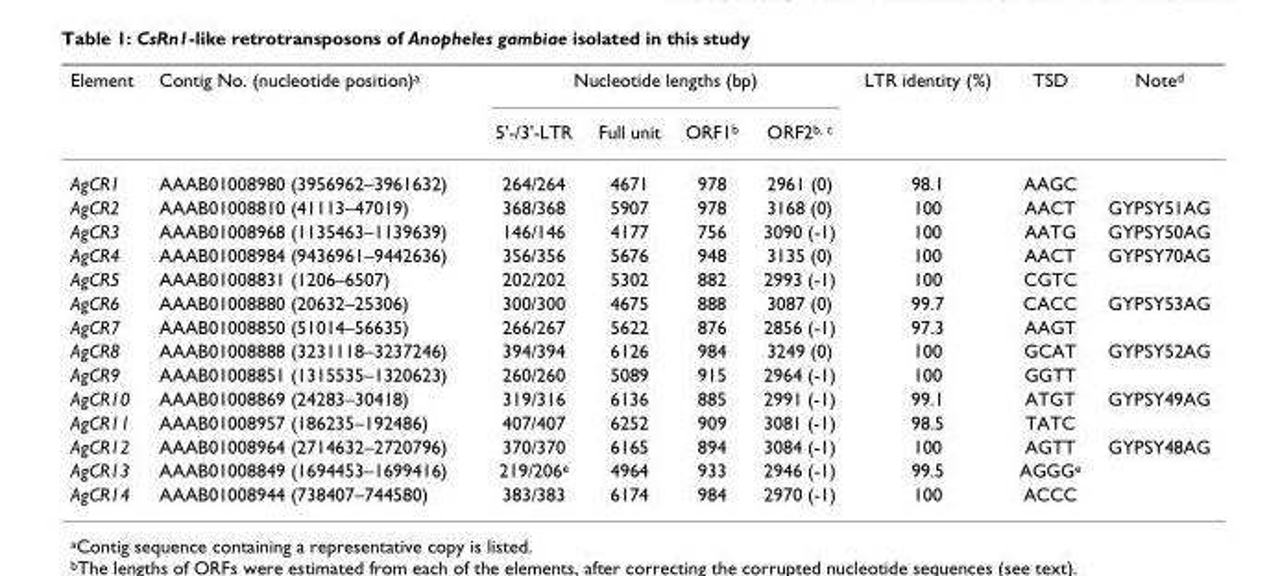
<table><thead><tr><td rowspan="2">Element</td><td rowspan="2">Contig No. (nucleotide position)<sup>a</sup></td><td colspan="4">Nucleotide lengths (bp)</td><td rowspan="2">LTR identity (%)</td><td rowspan="2">TSD</td><td rowspan="2">Note<sup>d</sup></td></tr><tr><td>5&#x27;-/3&#x27;-LTR</td><td>Full unit</td><td>ORF1<sup>b</sup></td><td>ORF2<sup>b, c</sup></td></tr></thead><tbody><tr><td>AgCR1</td><td>AAAB01008980 (3956962–3961632)</td><td>264/264</td><td>4671</td><td>978</td><td>2961 (0)</td><td>98.1</td><td>AAGC</td><td></td></tr><tr><td>AgCR2</td><td>AAAB01008810 (41113–47019)</td><td>368/368</td><td>5907</td><td>978</td><td>3168 (0)</td><td>100</td><td>AACT</td><td>GYPSY51AG</td></tr><tr><td>AgCR3</td><td>AAAB01008968 (1135463–1139639)</td><td>146/146</td><td>4177</td><td>756</td><td>3090 (-1)</td><td>100</td><td>AATG</td><td>GYPSY50AG</td></tr><tr><td>AgCR4</td><td>AAAB01008984 (9436961–9442636)</td><td>356/356</td><td>5676</td><td>948</td><td>3135 (0)</td><td>100</td><td>AACT</td><td>GYPSY70AG</td></tr><tr><td>AgCR5</td><td>AAAB01008831 (1206–6507)</td><td>202/202</td><td>5302</td><td>882</td><td>2993 (-1)</td><td>100</td><td>CGTC</td><td></td></tr><tr><td>AgCR6</td><td>AAAB01008880 (20632–25306)</td><td>300/300</td><td>4675</td><td>888</td><td>3087 (0)</td><td>99.7</td><td>CACC</td><td>GYPSY53AG</td></tr><tr><td>AgCR7</td><td>AAAB01008850 (51014–56635)</td><td>266/267</td><td>5622</td><td>876</td><td>2856 (-1)</td><td>97.3</td><td>AAGT</td><td></td></tr><tr><td>AgCR8</td><td>AAAB01008888 (3231118–3237246)</td><td>394/394</td><td>6126</td><td>984</td><td>3249 (0)</td><td>100</td><td>GCAT</td><td>GYPSY52AG</td></tr><tr><td>AgCR9</td><td>AAAB01008851 (1315535–1320623)</td><td>260/260</td><td>5089</td><td>915</td><td>2964 (-1)</td><td>100</td><td>GGTT</td><td></td></tr><tr><td>AgCR10</td><td>AAAB01008869 (24283–30418)</td><td>319/316</td><td>6136</td><td>885</td><td>2991 (-1)</td><td>99.1</td><td>ATGT</td><td>GYPSY49AG</td></tr><tr><td>AgCR11</td><td>AAAB01008957 (186235–192486)</td><td>407/407</td><td>6252</td><td>909</td><td>3081 (-1)</td><td>98.5</td><td>TATC</td><td></td></tr><tr><td>AgCR12</td><td>AAAB01008964 (2714632–2720796)</td><td>370/370</td><td>6165</td><td>894</td><td>3084 (-1)</td><td>100</td><td>AGTT</td><td>GYPSY48AG</td></tr><tr><td>AgCR13</td><td>AAAB01008849 (1694453–1699416)</td><td>219/206<sup>e</sup></td><td>4964</td><td>933</td><td>2946 (-1)</td><td>99.5</td><td>AGGG<sup>e</sup></td><td></td></tr><tr><td>AgCR14</td><td>AAAB01008944 (738407–744580)</td><td>383/383</td><td>6174</td><td>984</td><td>2970 (-1)</td><td>100</td><td>ACCC</td><td></td></tr></tbody></table>